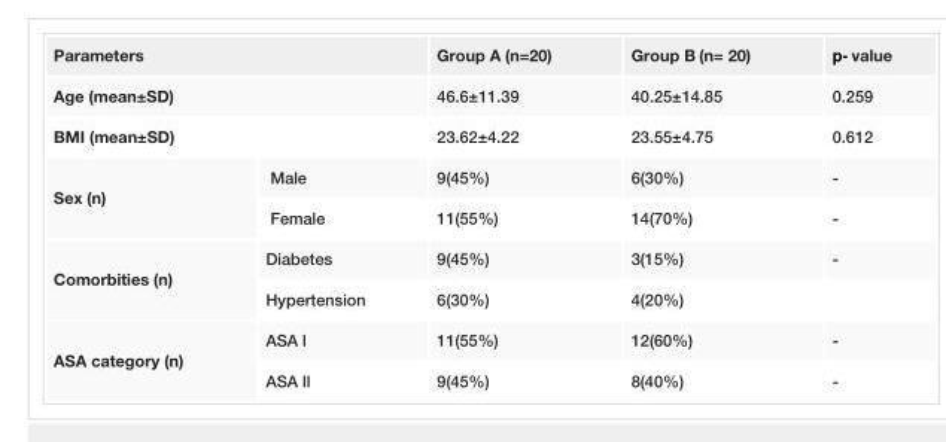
<table><tbody><tr><td colspan="2">Parameters</td><td>Group A (n=20)</td><td>Group B (n= 20)</td><td>p- value</td></tr><tr><td colspan="2">Age (mean±SD)</td><td>46.6±11.39</td><td>40.25±14.85</td><td>0.259</td></tr><tr><td colspan="2">BMI (mean±SD)</td><td>23.62±4.22</td><td>23.55±4.75</td><td>0.612</td></tr><tr><td rowspan="2">Sex (n)</td><td>Male</td><td>9(45%)</td><td>6(30%)</td><td>-</td></tr><tr><td>Female</td><td>11(55%)</td><td>14(70%)</td><td>-</td></tr><tr><td rowspan="2">Comorbities (n)</td><td>Diabetes</td><td>9(45%)</td><td>3(15%)</td><td>-</td></tr><tr><td>Hypertension</td><td>6(30%)</td><td>4(20%)</td><td></td></tr><tr><td rowspan="2">ASA category (n)</td><td>ASA l</td><td>11(55%)</td><td>12(60%)</td><td>-</td></tr><tr><td>ASA ll</td><td>9(45%)</td><td>8(40%)</td><td>-</td></tr></tbody></table>